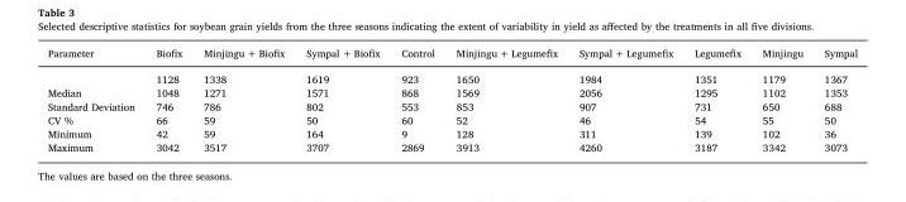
<table><thead><tr><td>Parameter</td><td>Biofix</td><td>Minjingu + Biofix</td><td>Sympal + Biofix</td><td>Control</td><td>Minjingu + Legumefix</td><td>Sympal + Legumefix</td><td>Legumefix</td><td>Minjingu</td><td>Sympal</td></tr></thead><tbody><tr><td></td><td>1128</td><td>1338</td><td>1619</td><td>923</td><td>1650</td><td>1984</td><td>1351</td><td>1179</td><td>1367</td></tr><tr><td>Median</td><td>1048</td><td>1271</td><td>1571</td><td>868</td><td>1569</td><td>2056</td><td>1295</td><td>1102</td><td>1353</td></tr><tr><td>Standard Deviation</td><td>746</td><td>786</td><td>802</td><td>553</td><td>853</td><td>907</td><td>731</td><td>650</td><td>688</td></tr><tr><td>CV %</td><td>66</td><td>59</td><td>50</td><td>60</td><td>52</td><td>46</td><td>54</td><td>55</td><td>50</td></tr><tr><td>Minimum</td><td>42</td><td>59</td><td>164</td><td>9</td><td>128</td><td>311</td><td>139</td><td>102</td><td>36</td></tr><tr><td>Maximum</td><td>3042</td><td>3517</td><td>3707</td><td>2869</td><td>3913</td><td>4260</td><td>3187</td><td>3342</td><td>3073</td></tr></tbody></table>